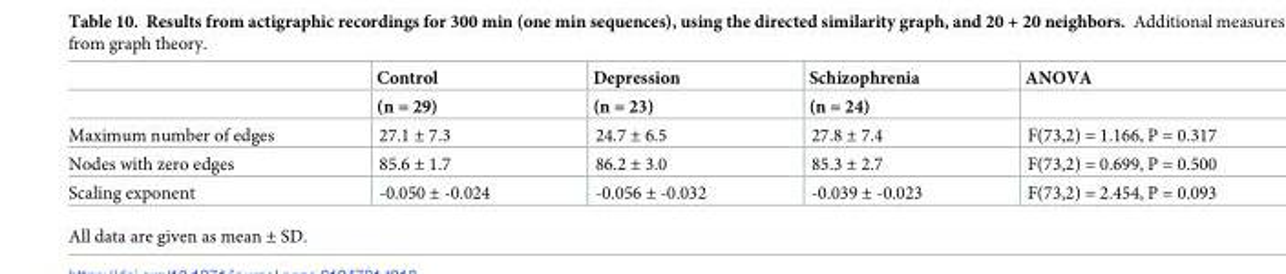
<table><thead><tr><td rowspan="2"></td><td rowspan="2">Control (n = 29)</td><td rowspan="2">Depression (n = 23)</td><td rowspan="2">Schizophrenia (n = 24)</td><td rowspan="2">ANOVA</td></tr><tr></tr></thead><tbody><tr><td>Maximum number of edges</td><td>27.1 ± 7.3</td><td>24.7 ± 6.5</td><td>27.8 ± 7.4</td><td>F(73,2) = 1.166, P = 0.317</td></tr><tr><td>Nodes with zero edges</td><td>85.6 ± 1.7</td><td>86.2 ± 3.0</td><td>85.3 ± 2.7</td><td>F(73,2) = 0.699, P = 0.500</td></tr><tr><td>Scaling exponent</td><td>-0.050 ± -0.024</td><td>-0.056 ± -0.032</td><td>-0.039 ± -0.023</td><td>F(73,2) = 2.454, P = 0.093</td></tr></tbody></table>